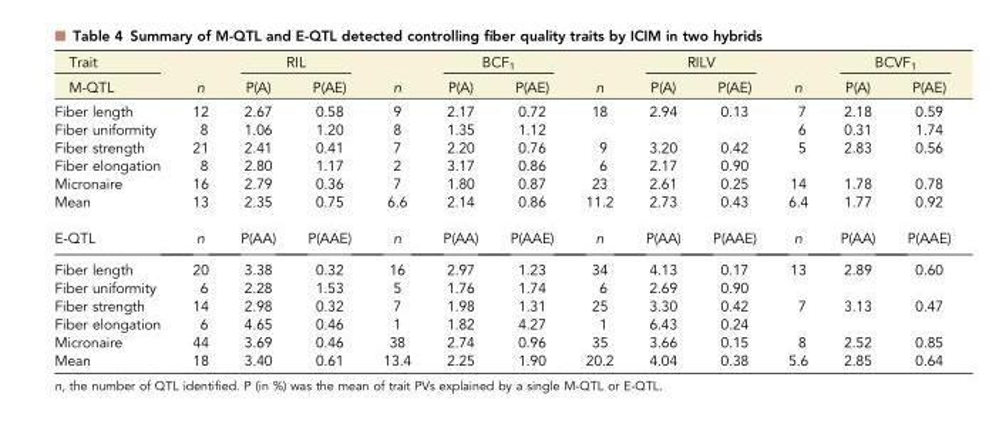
<table><thead><tr><td rowspan="2">Trait M-QTL</td><td rowspan="2">n</td><td colspan="2">RIL</td><td rowspan="2">n</td><td colspan="2">BCF<sub>1</sub></td><td rowspan="2">n</td><td colspan="2">RILV</td><td rowspan="2">n</td><td colspan="2">BCVF<sub>1</sub></td></tr><tr><td>P(A)</td><td>P(AE)</td><td>P(A)</td><td>P(AE)</td><td>P(A)</td><td>P(AE)</td><td>P(A)</td><td>P(AE)</td></tr></thead><tbody><tr><td>Fiber length</td><td>12</td><td>2.67</td><td>0.58</td><td>9</td><td>2.17</td><td>0.72</td><td>18</td><td>2.94</td><td>0.13</td><td>7</td><td>2.18</td><td>0.59</td></tr><tr><td>Fiber uniformity</td><td>8</td><td>1.06</td><td>1.20</td><td>8</td><td>1.35</td><td>1.12</td><td></td><td></td><td></td><td>6</td><td>0.31</td><td>1.74</td></tr><tr><td>Fiber strength</td><td>21</td><td>2.41</td><td>0.41</td><td>7</td><td>2.20</td><td>0.76</td><td>9</td><td>3.20</td><td>0.42</td><td>5</td><td>2.83</td><td>0.56</td></tr><tr><td>Fiber elongation</td><td>8</td><td>2.80</td><td>1.17</td><td>2</td><td>3.17</td><td>0.86</td><td>6</td><td>2.17</td><td>0.90</td><td></td><td></td><td></td></tr><tr><td>Micronaire</td><td>16</td><td>2.79</td><td>0.36</td><td>7</td><td>1.80</td><td>0.87</td><td>23</td><td>2.61</td><td>0.25</td><td>14</td><td>1.78</td><td>0.78</td></tr><tr><td>Mean</td><td>13</td><td>2.35</td><td>0.75</td><td>6.6</td><td>2.14</td><td>0.86</td><td>11.2</td><td>2.73</td><td>0.43</td><td>6.4</td><td>1.77</td><td>0.92</td></tr><tr><td>E-QTL</td><td>n</td><td>P(AA)</td><td>P(AAE)</td><td>n</td><td>P(AA)</td><td>P(AAE)</td><td>n</td><td>P(AA)</td><td>P(AAE)</td><td>n</td><td>P(AA)</td><td>P(AAE)</td></tr><tr><td>Fiber length</td><td>20</td><td>3.38</td><td>0.32</td><td>16</td><td>2.97</td><td>1.23</td><td>34</td><td>4.13</td><td>0.17</td><td>13</td><td>2.89</td><td>0.60</td></tr><tr><td>Fiber uniformity</td><td>6</td><td>2.28</td><td>1.53</td><td>5</td><td>1.76</td><td>1.74</td><td>6</td><td>2.69</td><td>0.90</td><td></td><td></td><td></td></tr><tr><td>Fiber strength</td><td>14</td><td>2.98</td><td>0.32</td><td>7</td><td>1.98</td><td>1.31</td><td>25</td><td>3.30</td><td>0.42</td><td>7</td><td>3.13</td><td>0.47</td></tr><tr><td>Fiber elongation</td><td>6</td><td>4.65</td><td>0.46</td><td>1</td><td>1.82</td><td>4.27</td><td>1</td><td>6.43</td><td>0.24</td><td></td><td></td><td></td></tr><tr><td>Micronaire</td><td>44</td><td>3.69</td><td>0.46</td><td>38</td><td>2.74</td><td>0.96</td><td>35</td><td>3.66</td><td>0.15</td><td>8</td><td>2.52</td><td>0.85</td></tr><tr><td>Mean</td><td>18</td><td>3.40</td><td>0.61</td><td>13.4</td><td>2.25</td><td>1.90</td><td>20.2</td><td>4.04</td><td>0.38</td><td>5.6</td><td>2.85</td><td>0.64</td></tr></tbody></table>